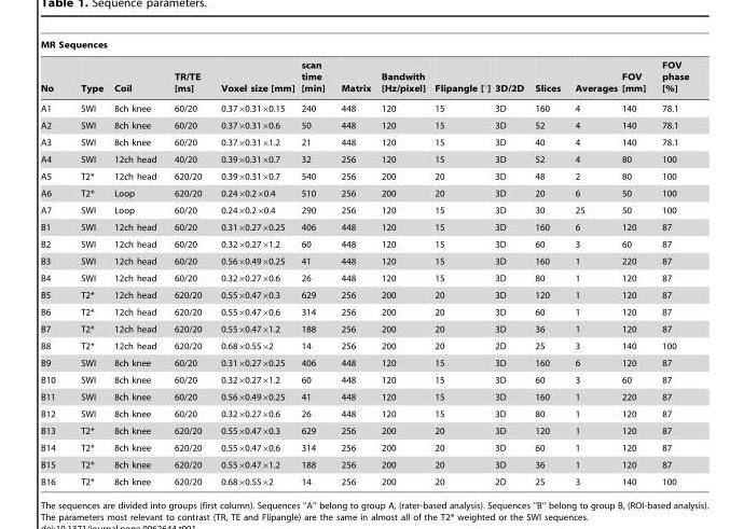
<table><thead><tr><td colspan="14">MR Sequences</td></tr><tr><td>No</td><td>Type</td><td>Coil</td><td>TR/TE [ms]</td><td>Voxel size [mm]</td><td>scan time [min]</td><td>Matrix</td><td>Bandwith [Hz/pixel]</td><td>Flipangle [°]</td><td>3D/2D</td><td>Slices</td><td>Averages</td><td>FOV [mm]</td><td>FOV phase [%]</td></tr></thead><tbody><tr><td>A1</td><td>SWI</td><td>8ch knee</td><td>60/20</td><td>0.37×0.31×0.15</td><td>240</td><td>448</td><td>120</td><td>15</td><td>3D</td><td>160</td><td>4</td><td>140</td><td>78.1</td></tr><tr><td>A2</td><td>SWI</td><td>8ch knee</td><td>60/20</td><td>0.37×0.31×0.6</td><td>50</td><td>448</td><td>120</td><td>15</td><td>3D</td><td>52</td><td>4</td><td>140</td><td>78.1</td></tr><tr><td>A3</td><td>SWI</td><td>8ch knee</td><td>60/20</td><td>0.37×0.31×1.2</td><td>21</td><td>448</td><td>120</td><td>15</td><td>3D</td><td>40</td><td>4</td><td>140</td><td>78.1</td></tr><tr><td>A4</td><td>SWI</td><td>12ch head</td><td>40/20</td><td>0.39×0.31×0.7</td><td>32</td><td>256</td><td>120</td><td>15</td><td>3D</td><td>52</td><td>4</td><td>80</td><td>100</td></tr><tr><td>A5</td><td>T2*</td><td>12ch head</td><td>620/20</td><td>0.39×0.31×0.7</td><td>540</td><td>256</td><td>200</td><td>20</td><td>3D</td><td>48</td><td>2</td><td>80</td><td>100</td></tr><tr><td>A6</td><td>T2*</td><td>Loop</td><td>620/20</td><td>0.24×0.2×0.4</td><td>510</td><td>256</td><td>200</td><td>20</td><td>3D</td><td>20</td><td>6</td><td>50</td><td>100</td></tr><tr><td>A7</td><td>SWI</td><td>Loop</td><td>60/20</td><td>0.24×0.2×0.4</td><td>290</td><td>256</td><td>120</td><td>15</td><td>3D</td><td>30</td><td>25</td><td>50</td><td>100</td></tr><tr><td>B1</td><td>SWI</td><td>12ch head</td><td>60/20</td><td>0.31×0.27×0.25</td><td>406</td><td>448</td><td>120</td><td>15</td><td>3D</td><td>160</td><td>6</td><td>120</td><td>87</td></tr><tr><td>B2</td><td>SWI</td><td>12ch head</td><td>60/20</td><td>0.32×0.27×1.2</td><td>60</td><td>448</td><td>120</td><td>15</td><td>3D</td><td>60</td><td>3</td><td>60</td><td>87</td></tr><tr><td>B3</td><td>SWI</td><td>12ch head</td><td>60/20</td><td>0.56×0.49×0.25</td><td>41</td><td>448</td><td>120</td><td>15</td><td>3D</td><td>160</td><td>1</td><td>220</td><td>87</td></tr><tr><td>B4</td><td>SWI</td><td>12ch head</td><td>60/20</td><td>0.32×0.27×0.6</td><td>26</td><td>448</td><td>120</td><td>15</td><td>3D</td><td>80</td><td>1</td><td>120</td><td>87</td></tr><tr><td>B5</td><td>T2*</td><td>12ch head</td><td>620/20</td><td>0.55×0.47×0.3</td><td>629</td><td>256</td><td>200</td><td>20</td><td>3D</td><td>120</td><td>1</td><td>120</td><td>87</td></tr><tr><td>B6</td><td>T2*</td><td>12ch head</td><td>620/20</td><td>0.55×0.47×0.6</td><td>314</td><td>256</td><td>200</td><td>20</td><td>3D</td><td>60</td><td>1</td><td>120</td><td>87</td></tr><tr><td>B7</td><td>T2*</td><td>12ch head</td><td>620/20</td><td>0.55×0.47×1.2</td><td>188</td><td>256</td><td>200</td><td>20</td><td>3D</td><td>36</td><td>1</td><td>120</td><td>87</td></tr><tr><td>B8</td><td>T2*</td><td>12ch head</td><td>620/20</td><td>0.68×0.55×2</td><td>14</td><td>256</td><td>200</td><td>20</td><td>2D</td><td>25</td><td>3</td><td>140</td><td>100</td></tr><tr><td>B9</td><td>SWI</td><td>8ch knee</td><td>60/20</td><td>0.31×0.27×0.25</td><td>406</td><td>448</td><td>120</td><td>15</td><td>3D</td><td>160</td><td>6</td><td>120</td><td>87</td></tr><tr><td>B10</td><td>SWI</td><td>8ch knee</td><td>60/20</td><td>0.32×0.27×1.2</td><td>60</td><td>448</td><td>120</td><td>15</td><td>3D</td><td>60</td><td>3</td><td>60</td><td>87</td></tr><tr><td>B11</td><td>SWI</td><td>8ch knee</td><td>60/20</td><td>0.56×0.49×0.25</td><td>41</td><td>448</td><td>120</td><td>15</td><td>3D</td><td>160</td><td>1</td><td>220</td><td>87</td></tr><tr><td>B12</td><td>SWI</td><td>8ch knee</td><td>60/20</td><td>0.32×0.27×0.6</td><td>26</td><td>448</td><td>120</td><td>15</td><td>3D</td><td>80</td><td>1</td><td>120</td><td>87</td></tr><tr><td>B13</td><td>T2*</td><td>8ch knee</td><td>620/20</td><td>0.55×0.47×0.3</td><td>629</td><td>256</td><td>200</td><td>20</td><td>3D</td><td>120</td><td>1</td><td>120</td><td>87</td></tr><tr><td>B14</td><td>T2*</td><td>8ch knee</td><td>620/20</td><td>0.55×0.47×0.6</td><td>314</td><td>256</td><td>200</td><td>20</td><td>3D</td><td>60</td><td>1</td><td>120</td><td>87</td></tr><tr><td>B15</td><td>T2*</td><td>8ch knee</td><td>620/20</td><td>0.55×0.47×1.2</td><td>188</td><td>256</td><td>200</td><td>20</td><td>3D</td><td>36</td><td>1</td><td>120</td><td>87</td></tr><tr><td>B16</td><td>T2*</td><td>8ch knee</td><td>620/20</td><td>0.68×0.55×2</td><td>14</td><td>256</td><td>200</td><td>20</td><td>2D</td><td>25</td><td>3</td><td>140</td><td>100</td></tr></tbody></table>